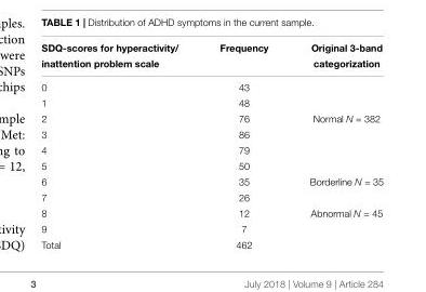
<table><thead><tr><td rowspan="2">SDQ-scores for hyperactivity/ inattention problem scale</td><td rowspan="2">Frequency</td><td rowspan="2">Original 3-band categorization</td></tr><tr></tr></thead><tbody><tr><td>0</td><td>43</td><td></td></tr><tr><td>1</td><td>48</td><td></td></tr><tr><td>2</td><td>76</td><td>Normal N = 382</td></tr><tr><td>3</td><td>86</td><td></td></tr><tr><td>4</td><td>79</td><td></td></tr><tr><td>5</td><td>50</td><td></td></tr><tr><td>6</td><td>35</td><td>Borderline N = 35</td></tr><tr><td>7</td><td>26</td><td></td></tr><tr><td>8</td><td>12</td><td>Abnormal N = 45</td></tr><tr><td>9</td><td>7</td><td></td></tr><tr><td>Total</td><td>462</td><td></td></tr></tbody></table>